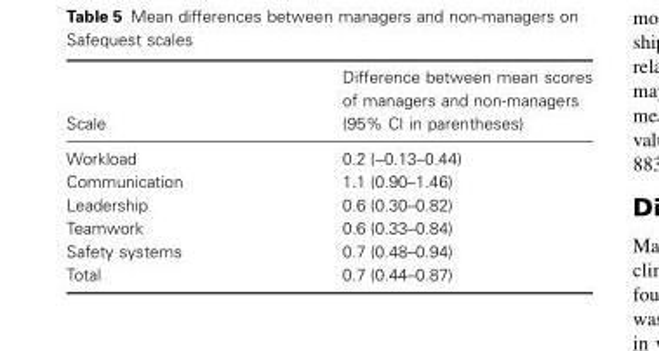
<table><thead><tr><td>Scale</td><td>Difference between mean scores of managers and non-managers (95% CI in parentheses)</td></tr></thead><tbody><tr><td>Workload</td><td>0.2 (−0.13–0.44)</td></tr><tr><td>Communication</td><td>1.1 (0.90–1.46)</td></tr><tr><td>Leadership</td><td>0.6 (0.30–0.82)</td></tr><tr><td>Teamwork</td><td>0.6 (0.33–0.84)</td></tr><tr><td>Safety systems</td><td>0.7 (0.48–0.94)</td></tr><tr><td>Total</td><td>0.7 (0.44–0.87)</td></tr></tbody></table>